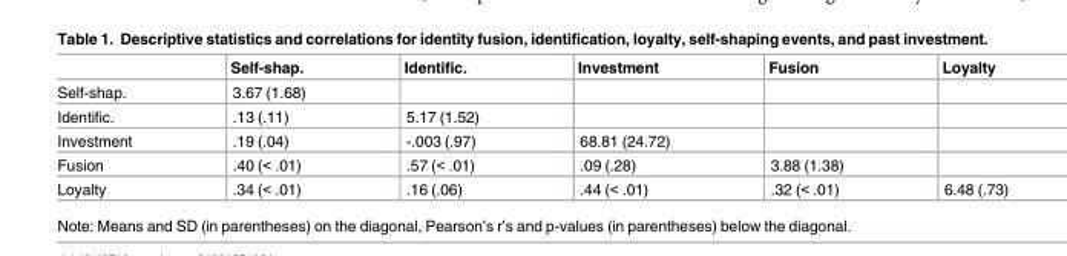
<table><thead><tr><td></td><td>Self-shap.</td><td>Identific.</td><td>Investment</td><td>Fusion</td><td>Loyalty</td></tr></thead><tbody><tr><td>Self-shap.</td><td>3.67 (1.68)</td><td></td><td></td><td></td><td></td></tr><tr><td>Identific.</td><td>.13 (.11)</td><td>5.17 (1.52)</td><td></td><td></td><td></td></tr><tr><td>Investment</td><td>.19 (.04)</td><td>-.003 (.97)</td><td>68.81 (24.72)</td><td></td><td></td></tr><tr><td>Fusion</td><td>.40 (&lt; .01)</td><td>.57 (&lt; .01)</td><td>.09 (.28)</td><td>3.88 (1.38)</td><td></td></tr><tr><td>Loyalty</td><td>.34 (&lt; .01)</td><td>.16 (.06)</td><td>.44 (&lt; .01)</td><td>.32 (&lt; .01)</td><td>6.48 (.73)</td></tr></tbody></table>